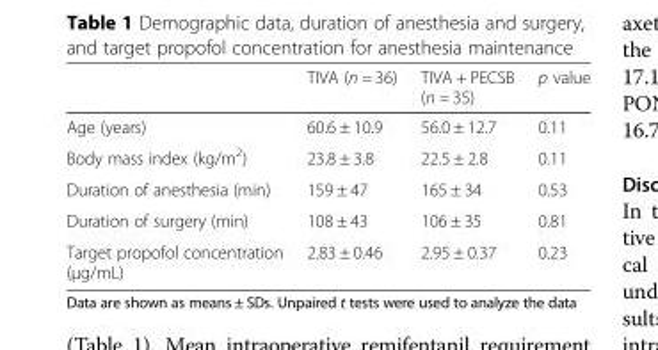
<table><thead><tr><td></td><td>TIVA (n = 36)</td><td>TIVA + PECSB (n = 35)</td><td>p value</td></tr></thead><tbody><tr><td>Age (years)</td><td>60.6 ± 10.9</td><td>56.0 ± 12.7</td><td>0.11</td></tr><tr><td>Body mass index (kg/m<sup>2</sup>)</td><td>23.8 ± 3.8</td><td>22.5 ± 2.8</td><td>0.11</td></tr><tr><td>Duration of anesthesia (min)</td><td>159 ± 47</td><td>165 ± 34</td><td>0.53</td></tr><tr><td>Duration of surgery (min)</td><td>108 ± 43</td><td>106 ± 35</td><td>0.81</td></tr><tr><td>Target propofol concentration (μg/mL)</td><td>2.83 ± 0.46</td><td>2.95 ± 0.37</td><td>0.23</td></tr></tbody></table>